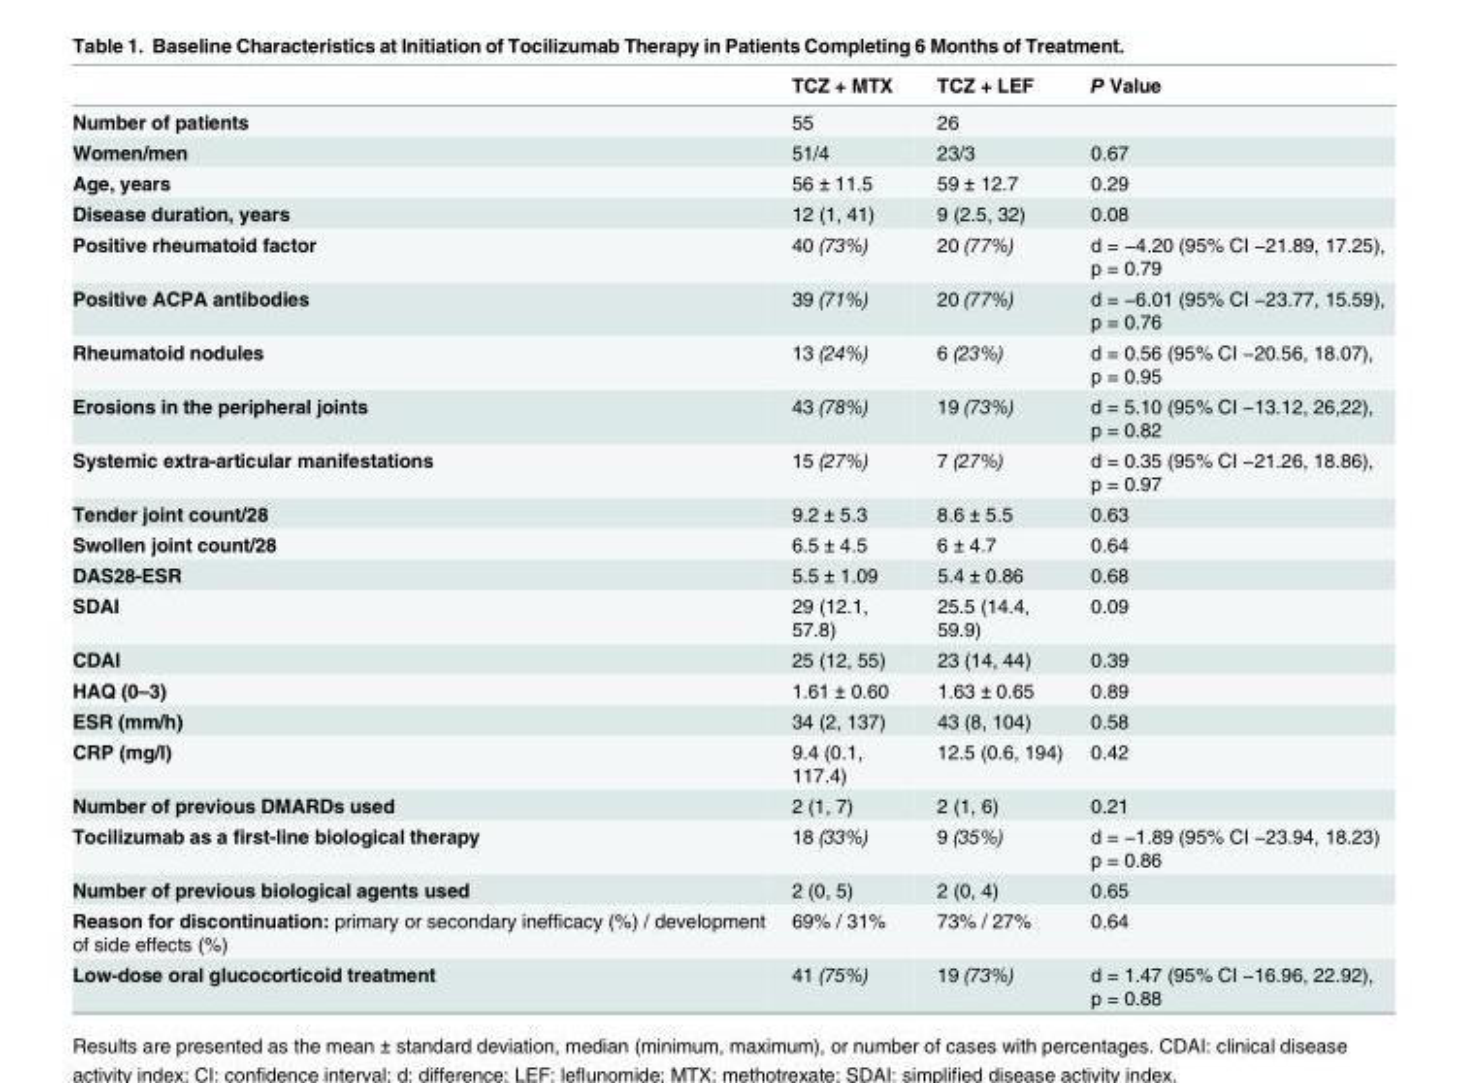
<table><thead><tr><td></td><td>TCZ + MTX</td><td>TCZ + LEF</td><td>P Value</td></tr></thead><tbody><tr><td>Number of patients</td><td>55</td><td>26</td><td></td></tr><tr><td>Women/men</td><td>51/4</td><td>23/3</td><td>0.67</td></tr><tr><td>Age, years</td><td>56 ± 11.5</td><td>59 ± 12.7</td><td>0.29</td></tr><tr><td>Disease duration, years</td><td>12 (1, 41)</td><td>9 (2.5, 32)</td><td>0.08</td></tr><tr><td>Positive rheumatoid factor</td><td>40 (73%)</td><td>20 (77%)</td><td>d = −4.20 (95% CI −21.89, 17.25), p = 0.79</td></tr><tr><td>Positive ACPA antibodies</td><td>39 (71%)</td><td>20 (77%)</td><td>d = −6.01 (95% CI −23.77, 15.59), p = 0.76</td></tr><tr><td>Rheumatoid nodules</td><td>13 (24%)</td><td>6 (23%)</td><td>d = 0.56 (95% CI −20.56, 18.07), p = 0.95</td></tr><tr><td>Erosions in the peripheral joints</td><td>43 (78%)</td><td>19 (73%)</td><td>d = 5.10 (95% CI −13.12, 26,22), p = 0.82</td></tr><tr><td>Systemic extra-articular manifestations</td><td>15 (27%)</td><td>7 (27%)</td><td>d = 0.35 (95% CI −21.26, 18.86), p = 0.97</td></tr><tr><td>Tender joint count/28</td><td>9.2 ± 5.3</td><td>8.6 ± 5.5</td><td>0.63</td></tr><tr><td>Swollen joint count/28</td><td>6.5 ± 4.5</td><td>6 ± 4.7</td><td>0.64</td></tr><tr><td>DAS28-ESR</td><td>5.5 ± 1.09</td><td>5.4 ± 0.86</td><td>0.68</td></tr><tr><td>SDAI</td><td>29 (12.1, 57.8)</td><td>25.5 (14.4, 59.9)</td><td>0.09</td></tr><tr><td>CDAI</td><td>25 (12, 55)</td><td>23 (14, 44)</td><td>0.39</td></tr><tr><td>HAQ (0–3)</td><td>1.61 ± 0.60</td><td>1.63 ± 0.65</td><td>0.89</td></tr><tr><td>ESR (mm/h)</td><td>34 (2, 137)</td><td>43 (8, 104)</td><td>0.58</td></tr><tr><td>CRP (mg/l)</td><td>9.4 (0.1, 117.4)</td><td>12.5 (0.6, 194)</td><td>0.42</td></tr><tr><td>Number of previous DMARDs used</td><td>2 (1, 7)</td><td>2 (1, 6)</td><td>0.21</td></tr><tr><td>Tocilizumab as a first-line biological therapy</td><td>18 (33%)</td><td>9 (35%)</td><td>d = −1.89 (95% CI −23.94, 18.23) p = 0.86</td></tr><tr><td>Number of previous biological agents used</td><td>2 (0, 5)</td><td>2 (0, 4)</td><td>0.65</td></tr><tr><td>Reason for discontinuation: primary or secondary inefficacy (%) / development of side effects (%)</td><td>69% / 31%</td><td>73% / 27%</td><td>0.64</td></tr><tr><td>Low-dose oral glucocorticoid treatment</td><td>41 (75%)</td><td>19 (73%)</td><td>d = 1.47 (95% CI −16.96, 22.92), p = 0.88</td></tr></tbody></table>